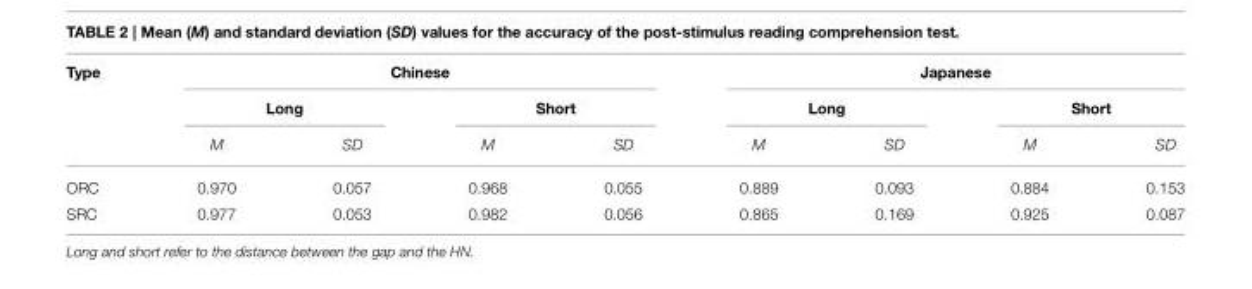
<table><thead><tr><td rowspan="3">Type</td><td colspan="4">Chinese</td><td colspan="4">Japanese</td></tr><tr><td colspan="2">Long</td><td colspan="2">Short</td><td colspan="2">Long</td><td colspan="2">Short</td></tr><tr><td>M</td><td>SD</td><td>M</td><td>SD</td><td>M</td><td>SD</td><td>M</td><td>SD</td></tr></thead><tbody><tr><td>ORC</td><td>0.970</td><td>0.057</td><td>0.968</td><td>0.055</td><td>0.889</td><td>0.093</td><td>0.884</td><td>0.153</td></tr><tr><td>SRC</td><td>0.977</td><td>0.053</td><td>0.982</td><td>0.056</td><td>0.865</td><td>0.169</td><td>0.925</td><td>0.087</td></tr></tbody></table>